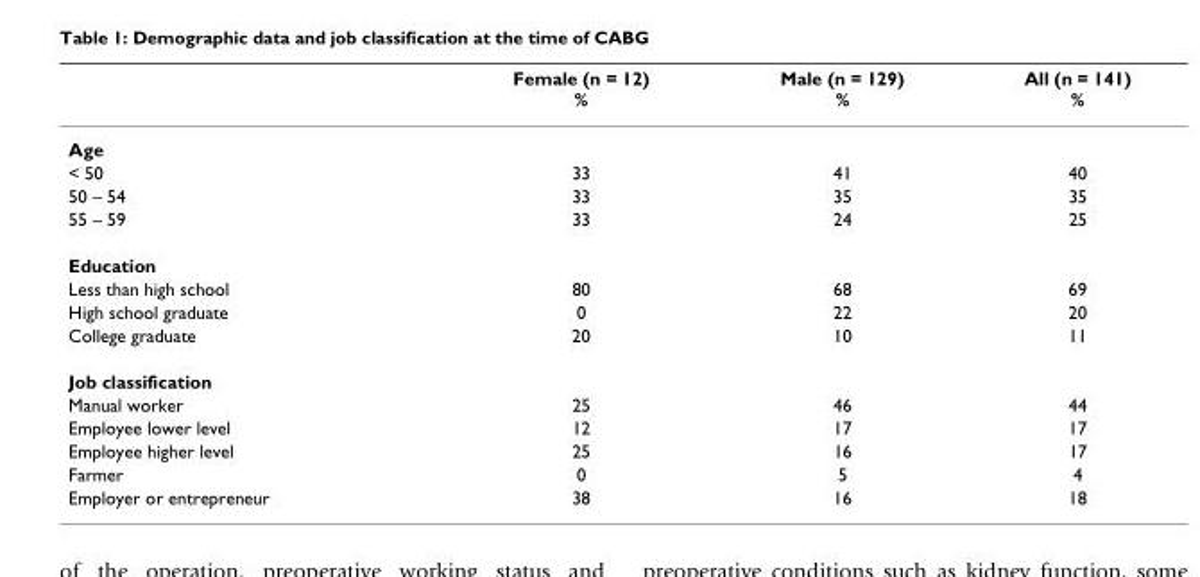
<table><thead><tr><td></td><td>Female (n = 12) %</td><td>Male (n = 129) %</td><td>All (n = 141) %</td></tr></thead><tbody><tr><td colspan="4">Age</td></tr><tr><td>&lt; 50</td><td>33</td><td>41</td><td>40</td></tr><tr><td>50 – 54</td><td>33</td><td>35</td><td>35</td></tr><tr><td>55 – 59</td><td>33</td><td>24</td><td>25</td></tr><tr><td colspan="4">Education</td></tr><tr><td>Less than high school</td><td>80</td><td>68</td><td>69</td></tr><tr><td>High school graduate</td><td>0</td><td>22</td><td>20</td></tr><tr><td>College graduate</td><td>20</td><td>10</td><td>11</td></tr><tr><td colspan="4">Job classification</td></tr><tr><td>Manual worker</td><td>25</td><td>46</td><td>44</td></tr><tr><td>Employee lower level</td><td>12</td><td>17</td><td>17</td></tr><tr><td>Employee higher level</td><td>25</td><td>16</td><td>17</td></tr><tr><td>Farmer</td><td>0</td><td>5</td><td>4</td></tr><tr><td>Employer or entrepreneur</td><td>38</td><td>16</td><td>18</td></tr></tbody></table>